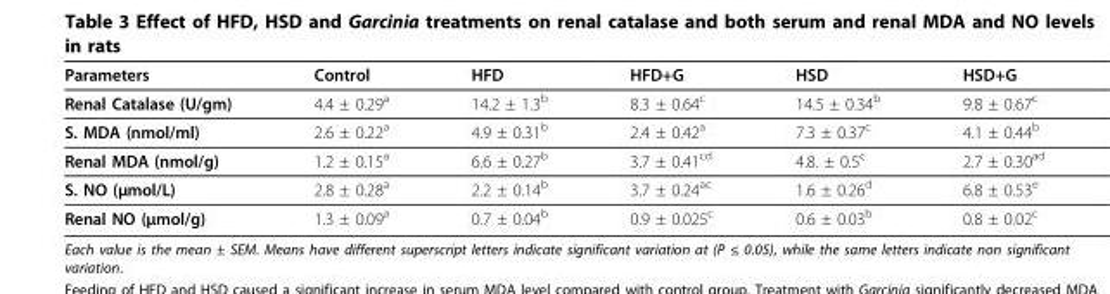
<table><thead><tr><td>Parameters</td><td>Control</td><td>HFD</td><td>HFD+G</td><td>HSD</td><td>HSD+G</td></tr></thead><tbody><tr><td>Renal Catalase (U/gm)</td><td>4.4 ± 0.29<sup>a</sup></td><td>14.2 ± 1.3<sup>b</sup></td><td>8.3 ± 0.64<sup>c</sup></td><td>14.5 ± 0.34<sup>b</sup></td><td>9.8 ± 0.67<sup>c</sup></td></tr><tr><td>S. MDA (nmol/ml)</td><td>2.6 ± 0.22<sup>a</sup></td><td>4.9 ± 0.31<sup>b</sup></td><td>2.4 ± 0.42<sup>a</sup></td><td>7.3 ± 0.37<sup>c</sup></td><td>4.1 ± 0.44<sup>b</sup></td></tr><tr><td>Renal MDA (nmol/g)</td><td>1.2 ± 0.15<sup>a</sup></td><td>6.6 ± 0.27<sup>b</sup></td><td>3.7 ± 0.41<sup>cd</sup></td><td>4.8. ± 0.5<sup>c</sup></td><td>2.7 ± 0.30<sup>ad</sup></td></tr><tr><td>S. NO (μmol/L)</td><td>2.8 ± 0.28<sup>a</sup></td><td>2.2 ± 0.14<sup>b</sup></td><td>3.7 ± 0.24<sup>ac</sup></td><td>1.6 ± 0.26<sup>d</sup></td><td>6.8 ± 0.53<sup>e</sup></td></tr><tr><td>Renal NO (μmol/g)</td><td>1.3 ± 0.09<sup>a</sup></td><td>0.7 ± 0.04<sup>b</sup></td><td>0.9 ± 0.025<sup>c</sup></td><td>0.6 ± 0.03<sup>b</sup></td><td>0.8 ± 0.02<sup>c</sup></td></tr></tbody></table>